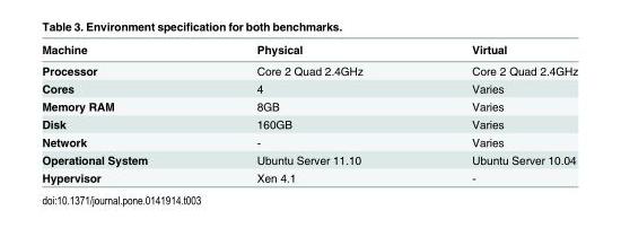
<table><thead><tr><td>Machine</td><td>Physical</td><td>Virtual</td></tr></thead><tbody><tr><td>Processor</td><td>Core 2 Quad 2.4GHz</td><td>Core 2 Quad 2.4GHz</td></tr><tr><td>Cores</td><td>4</td><td>Varies</td></tr><tr><td>Memory RAM</td><td>8GB</td><td>Varies</td></tr><tr><td>Disk</td><td>160GB</td><td>Varies</td></tr><tr><td>Network</td><td>-</td><td>Varies</td></tr><tr><td>Operational System</td><td>Ubuntu Server 11.10</td><td>Ubuntu Server 10.04</td></tr><tr><td>Hypervisor</td><td>Xen 4.1</td><td>-</td></tr></tbody></table>